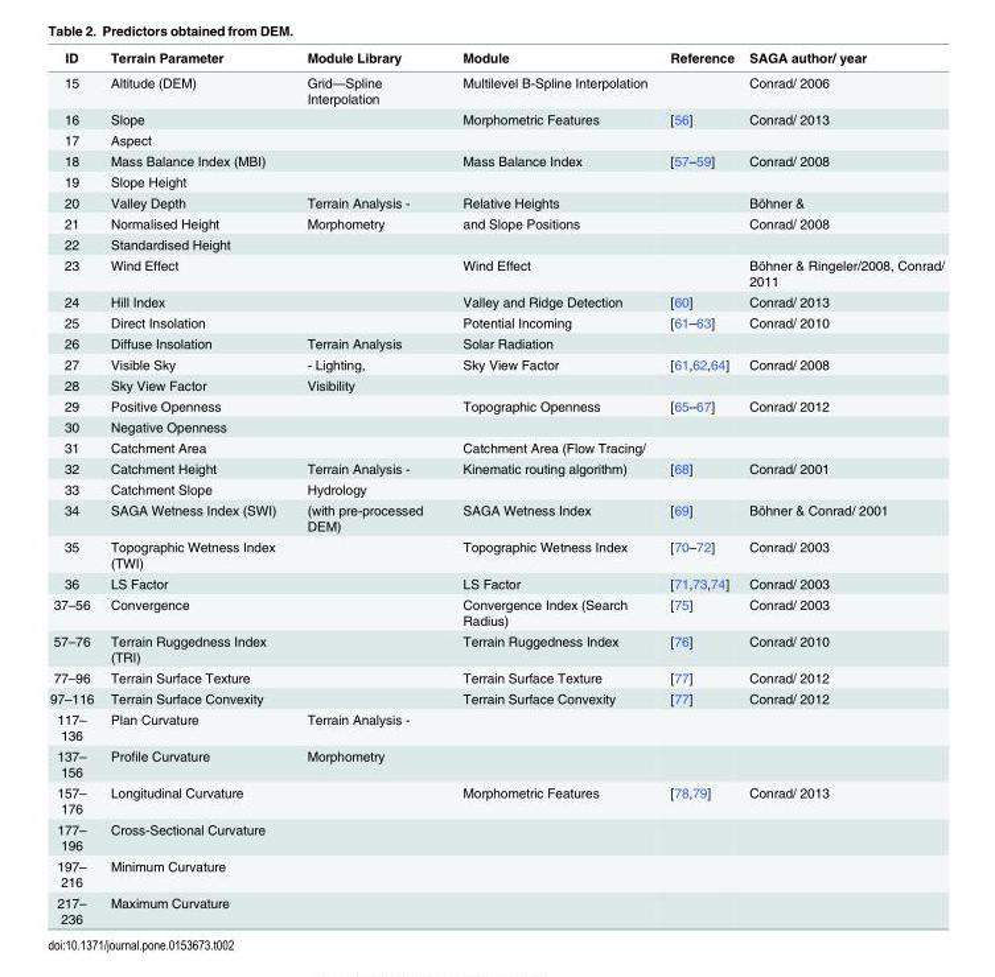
<table><thead><tr><td>ID</td><td>Terrain Parameter</td><td>Module Library</td><td>Module</td><td>Reference</td><td>SAGA author/ year</td></tr></thead><tbody><tr><td>15</td><td>Altitude (DEM)</td><td>Grid—Spline Interpolation</td><td>Multilevel B-Spline Interpolation</td><td></td><td>Conrad/ 2006</td></tr><tr><td>16</td><td>Slope</td><td></td><td>Morphometric Features</td><td>[56]</td><td>Conrad/ 2013</td></tr><tr><td>17</td><td>Aspect</td><td></td><td></td><td></td><td></td></tr><tr><td>18</td><td>Mass Balance Index (MBI)</td><td></td><td>Mass Balance Index</td><td>[57–59]</td><td>Conrad/ 2008</td></tr><tr><td>19</td><td>Slope Height</td><td></td><td></td><td></td><td></td></tr><tr><td>20</td><td>Valley Depth</td><td>Terrain Analysis -</td><td>Relative Heights</td><td></td><td>Böhner &amp;</td></tr><tr><td>21</td><td>Normalised Height</td><td>Morphometry</td><td>and Slope Positions</td><td></td><td>Conrad/ 2008</td></tr><tr><td>22</td><td>Standardised Height</td><td></td><td></td><td></td><td></td></tr><tr><td>23</td><td>Wind Effect</td><td></td><td>Wind Effect</td><td></td><td>Böhner &amp; Ringeler/2008, Conrad/ 2011</td></tr><tr><td>24</td><td>Hill Index</td><td></td><td>Valley and Ridge Detection</td><td>[60]</td><td>Conrad/ 2013</td></tr><tr><td>25</td><td>Direct Insolation</td><td></td><td>Potential Incoming</td><td>[61–63]</td><td>Conrad/ 2010</td></tr><tr><td>26</td><td>Diffuse Insolation</td><td>Terrain Analysis</td><td>Solar Radiation</td><td></td><td></td></tr><tr><td>27</td><td>Visible Sky</td><td>- Lighting,</td><td>Sky View Factor</td><td>[61,62,64]</td><td>Conrad/ 2008</td></tr><tr><td>28</td><td>Sky View Factor</td><td>Visibility</td><td></td><td></td><td></td></tr><tr><td>29</td><td>Positive Openness</td><td></td><td>Topographic Openness</td><td>[65–67]</td><td>Conrad/ 2012</td></tr><tr><td>30</td><td>Negative Openness</td><td></td><td></td><td></td><td></td></tr><tr><td>31</td><td>Catchment Area</td><td></td><td>Catchment Area (Flow Tracing/</td><td></td><td></td></tr><tr><td>32</td><td>Catchment Height</td><td>Terrain Analysis -</td><td>Kinematic routing algorithm)</td><td>[68]</td><td>Conrad/ 2001</td></tr><tr><td>33</td><td>Catchment Slope</td><td>Hydrology</td><td></td><td></td><td></td></tr><tr><td>34</td><td>SAGA Wetness Index (SWI)</td><td>(with pre-processed DEM)</td><td>SAGA Wetness Index</td><td>[69]</td><td>Böhner &amp; Conrad/ 2001</td></tr><tr><td>35</td><td>Topographic Wetness Index (TWI)</td><td></td><td>Topographic Wetness Index</td><td>[70–72]</td><td>Conrad/ 2003</td></tr><tr><td>36</td><td>LS Factor</td><td></td><td>LS Factor</td><td>[71,73,74]</td><td>Conrad/ 2003</td></tr><tr><td>37–56</td><td>Convergence</td><td></td><td>Convergence Index (Search Radius)</td><td>[75]</td><td>Conrad/ 2003</td></tr><tr><td>57–76</td><td>Terrain Ruggedness Index (TRI)</td><td></td><td>Terrain Ruggedness Index</td><td>[76]</td><td>Conrad/ 2010</td></tr><tr><td>77–96</td><td>Terrain Surface Texture</td><td></td><td>Terrain Surface Texture</td><td>[77]</td><td>Conrad/ 2012</td></tr><tr><td>97–116</td><td>Terrain Surface Convexity</td><td></td><td>Terrain Surface Convexity</td><td>[77]</td><td>Conrad/ 2012</td></tr><tr><td>117– 136</td><td>Plan Curvature</td><td>Terrain Analysis -</td><td></td><td></td><td></td></tr><tr><td>137– 156</td><td>Profile Curvature</td><td>Morphometry</td><td></td><td></td><td></td></tr><tr><td>157– 176</td><td>Longitudinal Curvature</td><td></td><td>Morphometric Features</td><td>[78,79]</td><td>Conrad/ 2013</td></tr><tr><td>177– 196</td><td>Cross-Sectional Curvature</td><td></td><td></td><td></td><td></td></tr><tr><td>197– 216</td><td>Minimum Curvature</td><td></td><td></td><td></td><td></td></tr><tr><td>217– 236</td><td>Maximum Curvature</td><td></td><td></td><td></td><td></td></tr></tbody></table>